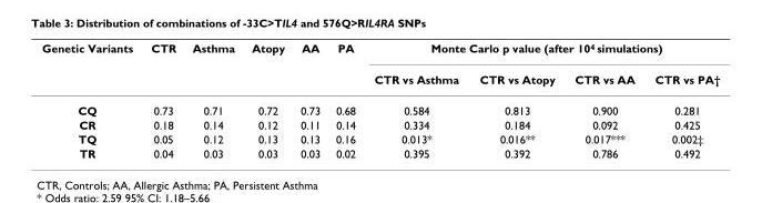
<table><thead><tr><td rowspan="2">Genetic Variants</td><td rowspan="2">CTR</td><td rowspan="2">Asthma</td><td rowspan="2">Atopy</td><td rowspan="2">AA</td><td rowspan="2">PA</td><td colspan="4">Monte Carlo p value (after 10<sup>4</sup> simulations)</td></tr><tr><td>CTR vs Asthma</td><td>CTR vs Atopy</td><td>CTR vs AA</td><td>CTR vs PA†</td></tr></thead><tbody><tr><td>CQ</td><td>0.73</td><td>0.71</td><td>0.72</td><td>0.73</td><td>0.68</td><td>0.584</td><td>0.813</td><td>0.900</td><td>0.281</td></tr><tr><td>CR</td><td>0.18</td><td>0.14</td><td>0.12</td><td>0.11</td><td>0.14</td><td>0.334</td><td>0.184</td><td>0.092</td><td>0.425</td></tr><tr><td>TQ</td><td>0.05</td><td>0.12</td><td>0.13</td><td>0.13</td><td>0.16</td><td>0.013*</td><td>0.016**</td><td>0.017***</td><td>0.002‡</td></tr><tr><td>TR</td><td>0.04</td><td>0.03</td><td>0.03</td><td>0.03</td><td>0.02</td><td>0.395</td><td>0.392</td><td>0.786</td><td>0.492</td></tr></tbody></table>